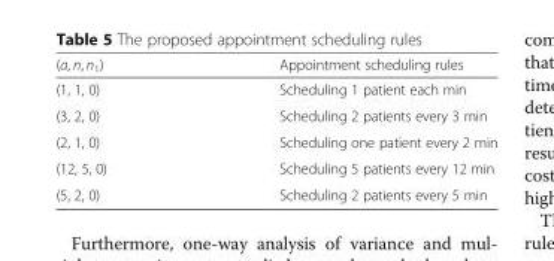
<table><thead><tr><td>(a, n, n<sub>1</sub>)</td><td>Appointment scheduling rules</td></tr></thead><tbody><tr><td>(1, 1, 0)</td><td>Scheduling 1 patient each min</td></tr><tr><td>(3, 2, 0)</td><td>Scheduling 2 patients every 3 min</td></tr><tr><td>(2, 1, 0)</td><td>Scheduling one patient every 2 min</td></tr><tr><td>(12, 5, 0)</td><td>Scheduling 5 patients every 12 min</td></tr><tr><td>(5, 2, 0)</td><td>Scheduling 2 patients every 5 min</td></tr></tbody></table>